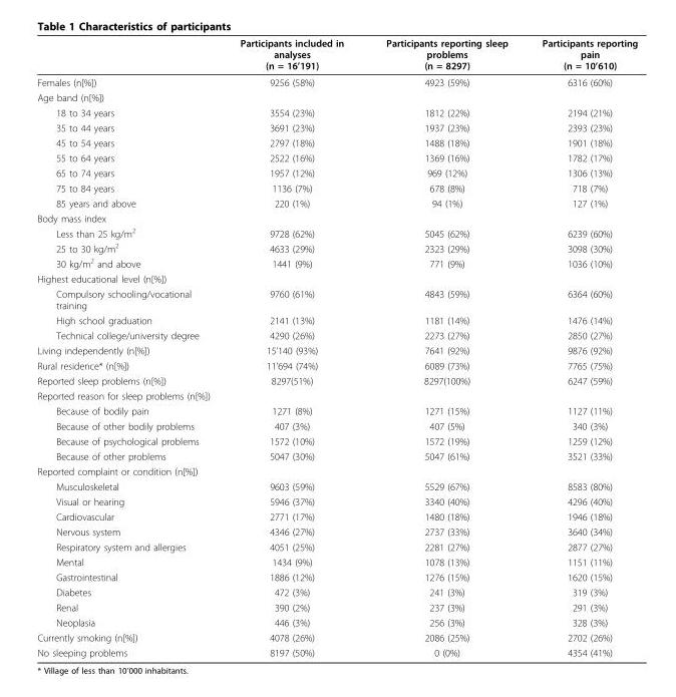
<table><thead><tr><td></td><td>Participants included in analyses (n = 16’191)</td><td>Participants reporting sleep problems (n = 8297)</td><td>Participants reporting pain (n = 10’610)</td></tr></thead><tbody><tr><td>Females (n[%])</td><td>9256 (58%)</td><td>4923 (59%)</td><td>6316 (60%)</td></tr><tr><td colspan="4">Age band (n[%])</td></tr><tr><td>18 to 34 years</td><td>3554 (23%)</td><td>1812 (22%)</td><td>2194 (21%)</td></tr><tr><td>35 to 44 years</td><td>3691 (23%)</td><td>1937 (23%)</td><td>2393 (23%)</td></tr><tr><td>45 to 54 years</td><td>2797 (18%)</td><td>1488 (18%)</td><td>1901 (18%)</td></tr><tr><td>55 to 64 years</td><td>2522 (16%)</td><td>1369 (16%)</td><td>1782 (17%)</td></tr><tr><td>65 to 74 years</td><td>1957 (12%)</td><td>969 (12%)</td><td>1306 (13%)</td></tr><tr><td>75 to 84 years</td><td>1136 (7%)</td><td>678 (8%)</td><td>718 (7%)</td></tr><tr><td>85 years and above</td><td>220 (1%)</td><td>94 (1%)</td><td>127 (1%)</td></tr><tr><td colspan="4">Body mass index</td></tr><tr><td>Less than 25 kg/m<sup>2</sup></td><td>9728 (62%)</td><td>5045 (62%)</td><td>6239 (60%)</td></tr><tr><td>25 to 30 kg/m<sup>2</sup></td><td>4633 (29%)</td><td>2323 (29%)</td><td>3098 (30%)</td></tr><tr><td>30 kg/m<sup>2</sup> and above</td><td>1441 (9%)</td><td>771 (9%)</td><td>1036 (10%)</td></tr><tr><td colspan="4">Highest educational level (n[%])</td></tr><tr><td>Compulsory schooling/vocational training</td><td>9760 (61%)</td><td>4843 (59%)</td><td>6364 (60%)</td></tr><tr><td>High school graduation</td><td>2141 (13%)</td><td>1181 (14%)</td><td>1476 (14%)</td></tr><tr><td>Technical college/university degree</td><td>4290 (26%)</td><td>2273 (27%)</td><td>2850 (27%)</td></tr><tr><td>Living independently (n[%])</td><td>15’140 (93%)</td><td>7641 (92%)</td><td>9876 (92%)</td></tr><tr><td>Rural residence* (n[%])</td><td>11’694 (74%)</td><td>6089 (73%)</td><td>7765 (75%)</td></tr><tr><td>Reported sleep problems (n[%])</td><td>8297(51%)</td><td>8297(100%)</td><td>6247 (59%)</td></tr><tr><td colspan="4">Reported reason for sleep problems (n[%])</td></tr><tr><td>Because of bodily pain</td><td>1271 (8%)</td><td>1271 (15%)</td><td>1127 (11%)</td></tr><tr><td>Because of other bodily problems</td><td>407 (3%)</td><td>407 (5%)</td><td>340 (3%)</td></tr><tr><td>Because of psychological problems</td><td>1572 (10%)</td><td>1572 (19%)</td><td>1259 (12%)</td></tr><tr><td>Because of other problems</td><td>5047 (30%)</td><td>5047 (61%)</td><td>3521 (33%)</td></tr><tr><td colspan="4">Reported complaint or condition (n[%])</td></tr><tr><td>Musculoskeletal</td><td>9603 (59%)</td><td>5529 (67%)</td><td>8583 (80%)</td></tr><tr><td>Visual or hearing</td><td>5946 (37%)</td><td>3340 (40%)</td><td>4296 (40%)</td></tr><tr><td>Cardiovascular</td><td>2771 (17%)</td><td>1480 (18%)</td><td>1946 (18%)</td></tr><tr><td>Nervous system</td><td>4346 (27%)</td><td>2737 (33%)</td><td>3640 (34%)</td></tr><tr><td>Respiratory system and allergies</td><td>4051 (25%)</td><td>2281 (27%)</td><td>2877 (27%)</td></tr><tr><td>Mental</td><td>1434 (9%)</td><td>1078 (13%)</td><td>1151 (11%)</td></tr><tr><td>Gastrointestinal</td><td>1886 (12%)</td><td>1276 (15%)</td><td>1620 (15%)</td></tr><tr><td>Diabetes</td><td>472 (3%)</td><td>241 (3%)</td><td>319 (3%)</td></tr><tr><td>Renal</td><td>390 (2%)</td><td>237 (3%)</td><td>291 (3%)</td></tr><tr><td>Neoplasia</td><td>446 (3%)</td><td>256 (3%)</td><td>328 (3%)</td></tr><tr><td>Currently smoking (n[%])</td><td>4078 (26%)</td><td>2086 (25%)</td><td>2702 (26%)</td></tr><tr><td>No sleeping problems</td><td>8197 (50%)</td><td>0 (0%)</td><td>4354 (41%)</td></tr></tbody></table>